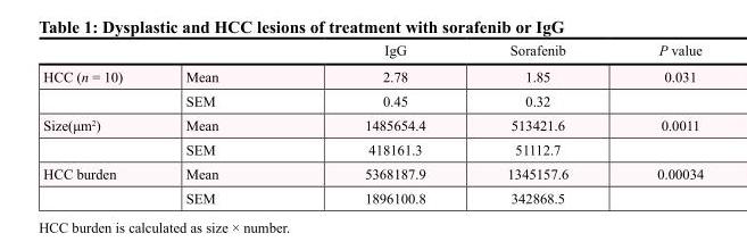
<table><thead><tr><td></td><td></td><td>IgG</td><td>Sorafenib</td><td>P value</td></tr></thead><tbody><tr><td rowspan="2">HCC (n = 10)</td><td>Mean</td><td>2.78</td><td>1.85</td><td>0.031</td></tr><tr><td>SEM</td><td>0.45</td><td>0.32</td><td></td></tr><tr><td rowspan="2">Size(μm<sup>2</sup>)</td><td>Mean</td><td>1485654.4</td><td>513421.6</td><td>0.0011</td></tr><tr><td>SEM</td><td>418161.3</td><td>51112.7</td><td></td></tr><tr><td rowspan="2">HCC burden</td><td>Mean</td><td>5368187.9</td><td>1345157.6</td><td>0.00034</td></tr><tr><td>SEM</td><td>1896100.8</td><td>342868.5</td><td></td></tr></tbody></table>